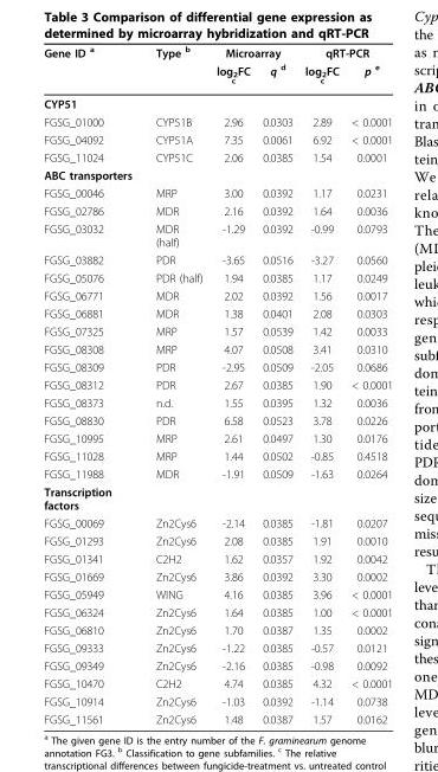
<table><thead><tr><td rowspan="2">Gene ID <sup>a</sup></td><td rowspan="2">Type <sup>b</sup></td><td colspan="2">Microarray</td><td colspan="2">qRT-PCR</td></tr><tr><td>log<sub>2</sub>FC <sup>c</sup></td><td>q <sup>d</sup></td><td>log<sub>2</sub>FC <sup>c</sup></td><td>p <sup>e</sup></td></tr></thead><tbody><tr><td colspan="6">CYP51</td></tr><tr><td>FGSG_01000</td><td>CYP51B</td><td>2.96</td><td>0.0303</td><td>2.89</td><td>&lt; 0.0001</td></tr><tr><td>FGSG_04092</td><td>CYP51A</td><td>7.35</td><td>0.0061</td><td>6.92</td><td>&lt; 0.0001</td></tr><tr><td>FGSG_11024</td><td>CYP51C</td><td>2.06</td><td>0.0385</td><td>1.54</td><td>0.0001</td></tr><tr><td colspan="6">ABC transporters</td></tr><tr><td>FGSG_00046</td><td>MRP</td><td>3.00</td><td>0.0392</td><td>1.17</td><td>0.0231</td></tr><tr><td>FGSG_02786</td><td>MDR</td><td>2.16</td><td>0.0392</td><td>1.64</td><td>0.0036</td></tr><tr><td>FGSG_03032</td><td>MDR (half)</td><td>-1.29</td><td>0.0392</td><td>-0.99</td><td>0.0793</td></tr><tr><td>FGSG_03882</td><td>PDR</td><td>-3.65</td><td>0.0516</td><td>-3.27</td><td>0.0560</td></tr><tr><td>FGSG_05076</td><td>PDR (half)</td><td>1.94</td><td>0.0385</td><td>1.17</td><td>0.0249</td></tr><tr><td>FGSG_06771</td><td>MDR</td><td>2.02</td><td>0.0392</td><td>1.56</td><td>0.0017</td></tr><tr><td>FGSG_06881</td><td>MDR</td><td>1.38</td><td>0.0401</td><td>2.08</td><td>0.0303</td></tr><tr><td>FGSG_07325</td><td>MRP</td><td>1.57</td><td>0.0539</td><td>1.42</td><td>0.0033</td></tr><tr><td>FGSG_08308</td><td>MRP</td><td>4.07</td><td>0.0508</td><td>3.41</td><td>0.0310</td></tr><tr><td>FGSG_08309</td><td>PDR</td><td>-2.95</td><td>0.0509</td><td>-2.05</td><td>0.0686</td></tr><tr><td>FGSG_08312</td><td>PDR</td><td>2.67</td><td>0.0385</td><td>1.90</td><td>&lt; 0.0001</td></tr><tr><td>FGSG_08373</td><td>n.d.</td><td>1.55</td><td>0.0395</td><td>1.32</td><td>0.0036</td></tr><tr><td>FGSG_08830</td><td>PDR</td><td>6.58</td><td>0.0523</td><td>3.78</td><td>0.0226</td></tr><tr><td>FGSG_10995</td><td>MRP</td><td>2.61</td><td>0.0497</td><td>1.30</td><td>0.0176</td></tr><tr><td>FGSG_11028</td><td>MRP</td><td>1.44</td><td>0.0502</td><td>-0.85</td><td>0.4518</td></tr><tr><td>FGSG_11988</td><td>MDR</td><td>-1.91</td><td>0.0509</td><td>-1.63</td><td>0.0264</td></tr><tr><td colspan="6">Transcription factors</td></tr><tr><td>FGSG_00069</td><td>Zn2Cys6</td><td>-2.14</td><td>0.0385</td><td>-1.81</td><td>0.0207</td></tr><tr><td>FGSG_01293</td><td>Zn2Cys6</td><td>2.08</td><td>0.0385</td><td>1.91</td><td>0.0010</td></tr><tr><td>FGSG_01341</td><td>C2H2</td><td>1.62</td><td>0.0357</td><td>1.92</td><td>0.0042</td></tr><tr><td>FGSG_01669</td><td>Zn2Cys6</td><td>3.86</td><td>0.0392</td><td>3.30</td><td>0.0002</td></tr><tr><td>FGSG_05949</td><td>WING</td><td>4.16</td><td>0.0385</td><td>3.96</td><td>&lt; 0.0001</td></tr><tr><td>FGSG_06324</td><td>Zn2Cys6</td><td>1.64</td><td>0.0385</td><td>1.00</td><td>&lt; 0.0001</td></tr><tr><td>FGSG_06810</td><td>Zn2Cys6</td><td>1.70</td><td>0.0387</td><td>1.35</td><td>0.0002</td></tr><tr><td>FGSG_09333</td><td>Zn2Cys6</td><td>-1.22</td><td>0.0385</td><td>-0.57</td><td>0.0121</td></tr><tr><td>FGSG_09349</td><td>Zn2Cys6</td><td>-2.16</td><td>0.0385</td><td>-0.98</td><td>0.0092</td></tr><tr><td>FGSG_10470</td><td>C2H2</td><td>4.74</td><td>0.0385</td><td>4.32</td><td>&lt; 0.0001</td></tr><tr><td>FGSG_10914</td><td>Zn2Cys6</td><td>-1.03</td><td>0.0392</td><td>-1.14</td><td>0.0738</td></tr><tr><td>FGSG_11561</td><td>Zn2Cys6</td><td>1.48</td><td>0.0387</td><td>1.57</td><td>0.0162</td></tr></tbody></table>